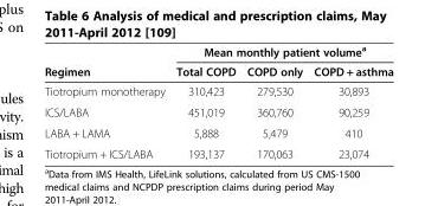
<table><thead><tr><td rowspan="2">Regimen</td><td colspan="3">Mean monthly patient volume<sup>a</sup></td></tr><tr><td>Total COPD</td><td>COPD only</td><td>COPD + asthma</td></tr></thead><tbody><tr><td>Tiotropium monotherapy</td><td>310,423</td><td>279,530</td><td>30,893</td></tr><tr><td>ICS/LABA</td><td>451,019</td><td>360,760</td><td>90,259</td></tr><tr><td>LABA + LAMA</td><td>5,888</td><td>5,479</td><td>410</td></tr><tr><td>Tiotropium + ICS/LABA</td><td>193,137</td><td>170,063</td><td>23,074</td></tr></tbody></table>